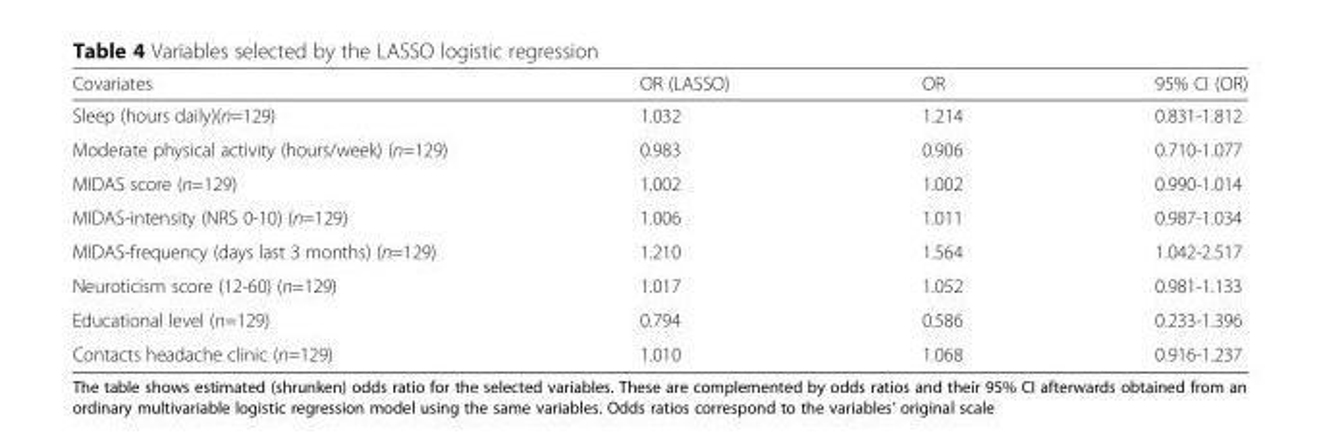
<table><thead><tr><td>Covariates</td><td>OR (LASSO)</td><td>OR</td><td>95% CI (OR)</td></tr></thead><tbody><tr><td>Sleep (hours daily)(n=129)</td><td>1.032</td><td>1.214</td><td>0.831-1.812</td></tr><tr><td>Moderate physical activity (hours/week) (n=129)</td><td>0.983</td><td>0.906</td><td>0.710-1.077</td></tr><tr><td>MIDAS score (n=129)</td><td>1.002</td><td>1.002</td><td>0.990-1.014</td></tr><tr><td>MIDAS-intensity (NRS 0-10) (n=129)</td><td>1.006</td><td>1.011</td><td>0.987-1.034</td></tr><tr><td>MIDAS-frequency (days last 3 months) (n=129)</td><td>1.210</td><td>1.564</td><td>1.042-2.517</td></tr><tr><td>Neuroticism score (12-60) (n=129)</td><td>1.017</td><td>1.052</td><td>0.981-1.133</td></tr><tr><td>Educational level (n=129)</td><td>0.794</td><td>0.586</td><td>0.233-1.396</td></tr><tr><td>Contacts headache clinic (n=129)</td><td>1.010</td><td>1.068</td><td>0.916-1.237</td></tr></tbody></table>